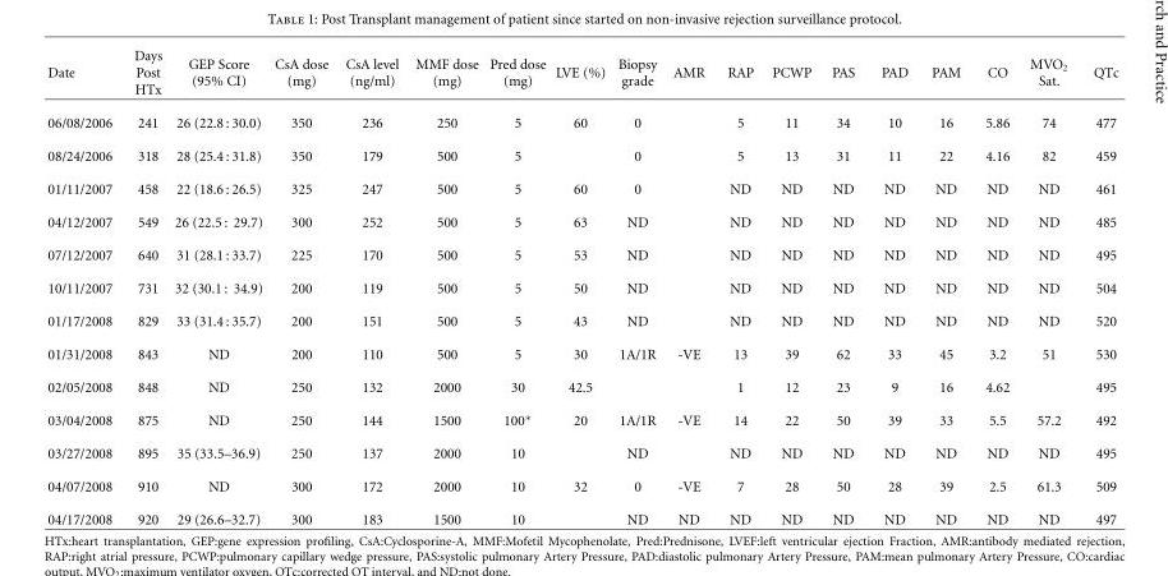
<table><thead><tr><td>Date</td><td>Days Post HTx</td><td>GEP Score (95% CI)</td><td>CsA dose (mg)</td><td>CsA level (ng/ml)</td><td>MMF dose (mg)</td><td>Pred dose (mg)</td><td>LVE (%)</td><td>Biopsy grade</td><td>AMR</td><td>RAP</td><td>PCWP</td><td>PAS</td><td>PAD</td><td>PAM</td><td>CO</td><td>MVO<sub>2</sub> Sat.</td><td>QTc</td></tr></thead><tbody><tr><td>06/08/2006</td><td>241</td><td>26 (22.8 : 30.0)</td><td>350</td><td>236</td><td>250</td><td>5</td><td>60</td><td>0</td><td></td><td>5</td><td>11</td><td>34</td><td>10</td><td>16</td><td>5.86</td><td>74</td><td>477</td></tr><tr><td>08/24/2006</td><td>318</td><td>28 (25.4 : 31.8)</td><td>350</td><td>179</td><td>500</td><td>5</td><td></td><td>0</td><td></td><td>5</td><td>13</td><td>31</td><td>11</td><td>22</td><td>4.16</td><td>82</td><td>459</td></tr><tr><td>01/11/2007</td><td>458</td><td>22 (18.6 : 26.5)</td><td>325</td><td>247</td><td>500</td><td>5</td><td>60</td><td>0</td><td></td><td>ND</td><td>ND</td><td>ND</td><td>ND</td><td>ND</td><td>ND</td><td>ND</td><td>461</td></tr><tr><td>04/12/2007</td><td>549</td><td>26 (22.5 : 29.7)</td><td>300</td><td>252</td><td>500</td><td>5</td><td>63</td><td>ND</td><td></td><td>ND</td><td>ND</td><td>ND</td><td>ND</td><td>ND</td><td>ND</td><td>ND</td><td>485</td></tr><tr><td>07/12/2007</td><td>640</td><td>31 (28.1 : 33.7)</td><td>225</td><td>170</td><td>500</td><td>5</td><td>53</td><td>ND</td><td></td><td>ND</td><td>ND</td><td>ND</td><td>ND</td><td>ND</td><td>ND</td><td>ND</td><td>495</td></tr><tr><td>10/11/2007</td><td>731</td><td>32 (30.1 : 34.9)</td><td>200</td><td>119</td><td>500</td><td>5</td><td>50</td><td>ND</td><td></td><td>ND</td><td>ND</td><td>ND</td><td>ND</td><td>ND</td><td>ND</td><td>ND</td><td>504</td></tr><tr><td>01/17/2008</td><td>829</td><td>33 (31.4 : 35.7)</td><td>200</td><td>151</td><td>500</td><td>5</td><td>43</td><td>ND</td><td></td><td>ND</td><td>ND</td><td>ND</td><td>ND</td><td>ND</td><td>ND</td><td>ND</td><td>520</td></tr><tr><td>01/31/2008</td><td>843</td><td>ND</td><td>200</td><td>110</td><td>500</td><td>5</td><td>30</td><td>1A/1R</td><td>-VE</td><td>13</td><td>39</td><td>62</td><td>33</td><td>45</td><td>3.2</td><td>51</td><td>530</td></tr><tr><td>02/05/2008</td><td>848</td><td>ND</td><td>250</td><td>132</td><td>2000</td><td>30</td><td>42.5</td><td></td><td></td><td>1</td><td>12</td><td>23</td><td>9</td><td>16</td><td>4.62</td><td></td><td>495</td></tr><tr><td>03/04/2008</td><td>875</td><td>ND</td><td>250</td><td>144</td><td>1500</td><td>100∗</td><td>20</td><td>1A/1R</td><td>-VE</td><td>14</td><td>22</td><td>50</td><td>39</td><td>33</td><td>5.5</td><td>57.2</td><td>492</td></tr><tr><td>03/27/2008</td><td>895</td><td>35 (33.5–36.9)</td><td>250</td><td>137</td><td>2000</td><td>10</td><td></td><td>ND</td><td></td><td>ND</td><td>ND</td><td>ND</td><td>ND</td><td>ND</td><td>ND</td><td>ND</td><td>495</td></tr><tr><td>04/07/2008</td><td>910</td><td>ND</td><td>300</td><td>172</td><td>2000</td><td>10</td><td>32</td><td>0</td><td>-VE</td><td>7</td><td>28</td><td>50</td><td>28</td><td>39</td><td>2.5</td><td>61.3</td><td>509</td></tr><tr><td>04/17/2008</td><td>920</td><td>29 (26.6–32.7)</td><td>300</td><td>183</td><td>1500</td><td>10</td><td></td><td>ND</td><td>ND</td><td>ND</td><td>ND</td><td>ND</td><td>ND</td><td>ND</td><td>ND</td><td>ND</td><td>497</td></tr></tbody></table>